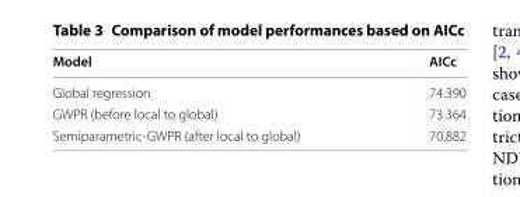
<table><thead><tr><td>Model</td><td>AICc</td></tr></thead><tbody><tr><td>Global regression</td><td>74.390</td></tr><tr><td>GWPR (before local to global)</td><td>73.364</td></tr><tr><td>Semiparametric-GWPR (after local to global)</td><td>70.882</td></tr></tbody></table>